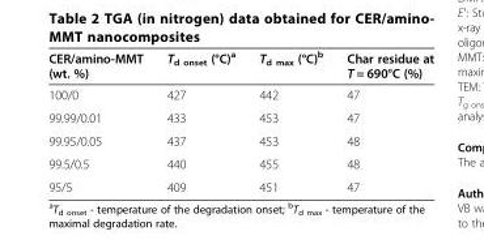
<table><thead><tr><td>CER/amino-MMT (wt. %)</td><td>T<sub>d onset</sub> (°C)<sup>a</sup></td><td>T<sub>d max</sub> (°C)<sup>b</sup></td><td>Char residue at T = 690°C (%)</td></tr></thead><tbody><tr><td>100/0</td><td>427</td><td>442</td><td>47</td></tr><tr><td>99.99/0.01</td><td>433</td><td>453</td><td>47</td></tr><tr><td>99.95/0.05</td><td>437</td><td>453</td><td>48</td></tr><tr><td>99.5/0.5</td><td>440</td><td>455</td><td>48</td></tr><tr><td>95/5</td><td>409</td><td>451</td><td>47</td></tr></tbody></table>